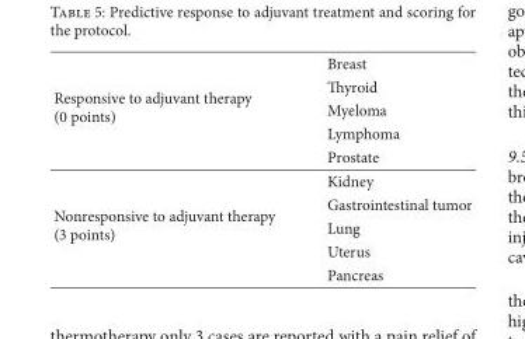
<table><tbody><tr><td rowspan="5">Responsive to adjuvant therapy (0 points)</td><td>Breast</td></tr><tr><td>Thyroid</td></tr><tr><td>Myeloma</td></tr><tr><td>Lymphoma</td></tr><tr><td>Prostate</td></tr><tr><td rowspan="5">Nonresponsive to adjuvant therapy (3 points)</td><td>Kidney</td></tr><tr><td>Gastrointestinal tumor</td></tr><tr><td>Lung</td></tr><tr><td>Uterus</td></tr><tr><td>Pancreas</td></tr></tbody></table>